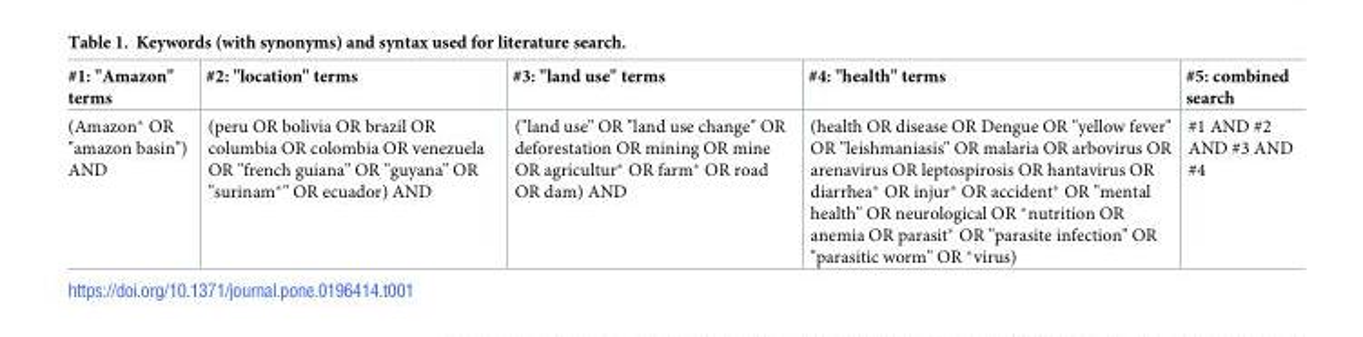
<table><thead><tr><td>#1: &quot;Amazon&quot; terms</td><td>#2: &quot;location&quot; terms</td><td>#3: &quot;land use&quot; terms</td><td>#4: &quot;health&quot; terms</td><td>#5: combined search</td></tr></thead><tbody><tr><td>(Amazon* OR &quot;amazon basin&quot;) AND</td><td>(peru OR bolivia OR brazil OR columbia OR colombia OR venezuela OR &quot;french guiana&quot; OR &quot;guyana&quot; OR &quot;surinam*&quot; OR ecuador) AND</td><td>(&quot;land use&quot; OR &quot;land use change&quot; OR deforestation OR mining OR mine OR agricultur* OR farm* OR road OR dam) AND</td><td>(health OR disease OR Dengue OR &quot;yellow fever&quot; OR &quot;leishmaniasis&quot; OR malaria OR arbovirus OR arenavirus OR leptospirosis OR hantavirus OR diarrhea* OR injur* OR accident* OR &quot;mental health&quot; OR neurological OR *nutrition OR anemia OR parasit* OR &quot;parasite infection&quot; OR &quot;parasitic worm&quot; OR *virus)</td><td>#1 AND #2 AND #3 AND #4</td></tr></tbody></table>